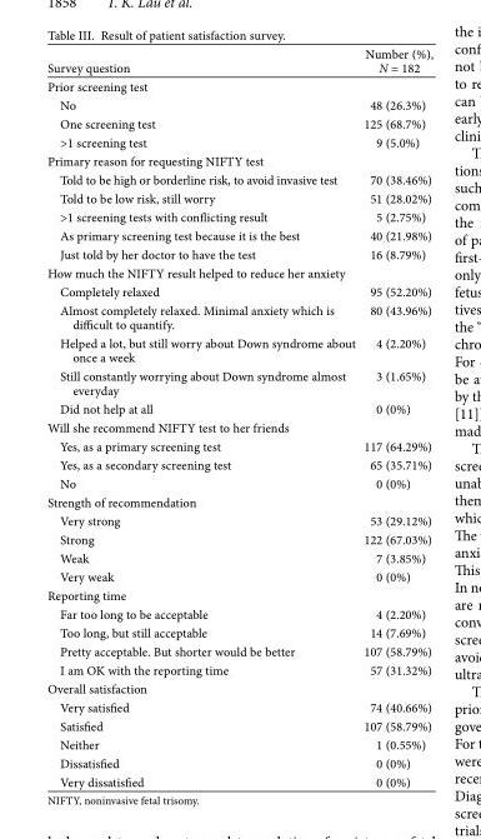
<table><thead><tr><td>Survey question</td><td>Number (%), N = 182</td></tr></thead><tbody><tr><td colspan="2">Prior screening test</td></tr><tr><td>No</td><td>48 (26.3%)</td></tr><tr><td>One screening test</td><td>125 (68.7%)</td></tr><tr><td>&gt;1 screening test</td><td>9 (5.0%)</td></tr><tr><td colspan="2">Primary reason for requesting NIFTY test</td></tr><tr><td>Told to be high or borderline risk, to avoid invasive test</td><td>70 (38.46%)</td></tr><tr><td>Told to be low risk, still worry</td><td>51 (28.02%)</td></tr><tr><td>&gt;1 screening tests with conflicting result</td><td>5 (2.75%)</td></tr><tr><td>As primary screening test because it is the best</td><td>40 (21.98%)</td></tr><tr><td>Just told by her doctor to have the test</td><td>16 (8.79%)</td></tr><tr><td colspan="2">How much the NIFTY result helped to reduce her anxiety</td></tr><tr><td>Completely relaxed</td><td>95 (52.20%)</td></tr><tr><td>Almost completely relaxed. Minimal anxiety which is difficult to quantify.</td><td>80 (43.96%)</td></tr><tr><td>Helped a lot, but still worry about Down syndrome about once a week</td><td>4 (2.20%)</td></tr><tr><td>Still constantly worrying about Down syndrome almost everyday</td><td>3 (1.65%)</td></tr><tr><td>Did not help at all</td><td>0 (0%)</td></tr><tr><td colspan="2">Will she recommend NIFTY test to her friends</td></tr><tr><td>Yes, as a primary screening test</td><td>117 (64.29%)</td></tr><tr><td>Yes, as a secondary screening test</td><td>65 (35.71%)</td></tr><tr><td>No</td><td>0 (0%)</td></tr><tr><td colspan="2">Strength of recommendation</td></tr><tr><td>Very strong</td><td>53 (29.12%)</td></tr><tr><td>Strong</td><td>122 (67.03%)</td></tr><tr><td>Weak</td><td>7 (3.85%)</td></tr><tr><td>Very weak</td><td>0 (0%)</td></tr><tr><td colspan="2">Reporting time</td></tr><tr><td>Far too long to be acceptable</td><td>4 (2.20%)</td></tr><tr><td>Too long, but still acceptable</td><td>14 (7.69%)</td></tr><tr><td>Pretty acceptable. But shorter would be better</td><td>107 (58.79%)</td></tr><tr><td>I am OK with the reporting time</td><td>57 (31.32%)</td></tr><tr><td colspan="2">Overall satisfaction</td></tr><tr><td>Very satisfied</td><td>74 (40.66%)</td></tr><tr><td>Satisfied</td><td>107 (58.79%)</td></tr><tr><td>Neither</td><td>1 (0.55%)</td></tr><tr><td>Dissatisfied</td><td>0 (0%)</td></tr><tr><td>Very dissatisfied</td><td>0 (0%)</td></tr></tbody></table>